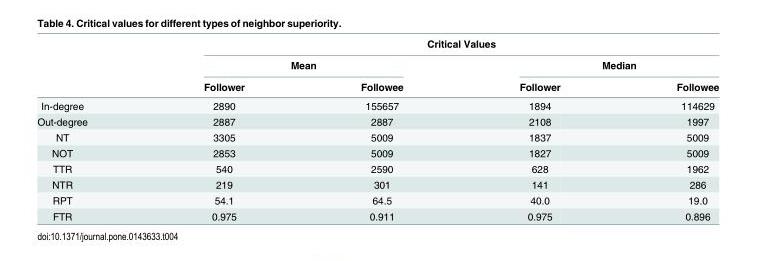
<table><thead><tr><td rowspan="3"></td><td colspan="4">Critical Values</td></tr><tr><td colspan="2">Mean</td><td colspan="2">Median</td></tr><tr><td>Follower</td><td>Followee</td><td>Follower</td><td>Followee</td></tr></thead><tbody><tr><td>In-degree</td><td>2890</td><td>155657</td><td>1894</td><td>114629</td></tr><tr><td>Out-degree</td><td>2887</td><td>2887</td><td>2108</td><td>1997</td></tr><tr><td>NT</td><td>3305</td><td>5009</td><td>1837</td><td>5009</td></tr><tr><td>NOT</td><td>2853</td><td>5009</td><td>1827</td><td>5009</td></tr><tr><td>TTR</td><td>540</td><td>2590</td><td>628</td><td>1962</td></tr><tr><td>NTR</td><td>219</td><td>301</td><td>141</td><td>286</td></tr><tr><td>RPT</td><td>54.1</td><td>64.5</td><td>40.0</td><td>19.0</td></tr><tr><td>FTR</td><td>0.975</td><td>0.911</td><td>0.975</td><td>0.896</td></tr></tbody></table>